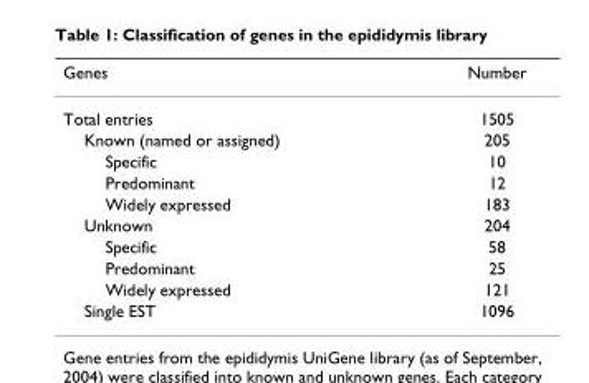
<table><thead><tr><td>Genes</td><td>Number</td></tr></thead><tbody><tr><td>Total entries</td><td>1505</td></tr><tr><td>Known (named or assigned)</td><td>205</td></tr><tr><td>Specific</td><td>10</td></tr><tr><td>Predominant</td><td>12</td></tr><tr><td>Widely expressed</td><td>183</td></tr><tr><td>Unknown</td><td>204</td></tr><tr><td>Specific</td><td>58</td></tr><tr><td>Predominant</td><td>25</td></tr><tr><td>Widely expressed</td><td>121</td></tr><tr><td>Single EST</td><td>1096</td></tr></tbody></table>